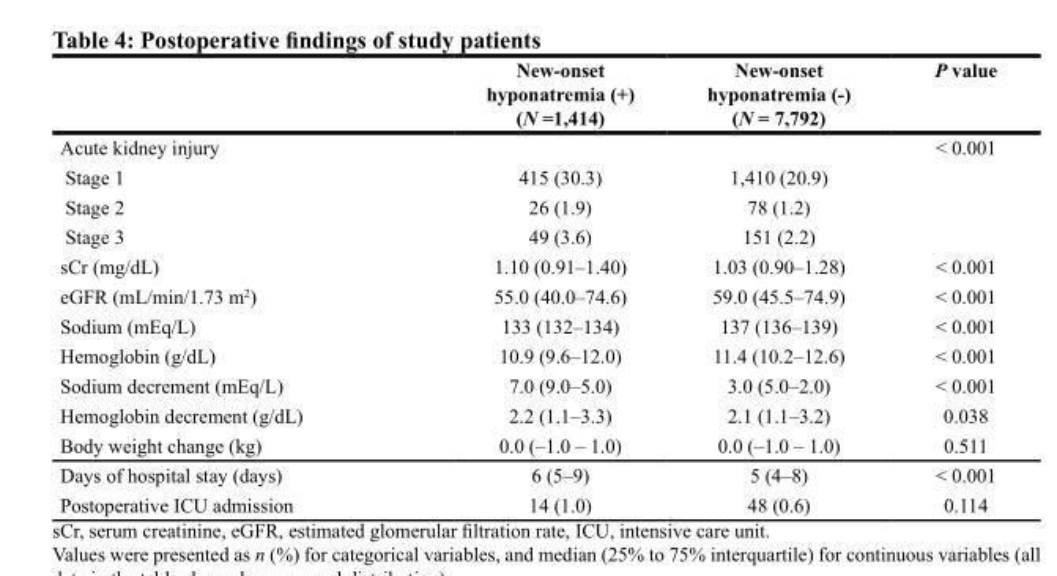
<table><thead><tr><td></td><td>New-onset hyponatremia (+) (N =1,414)</td><td>New-onset hyponatremia (-) (N = 7,792)</td><td>P value</td></tr></thead><tbody><tr><td>Acute kidney injury</td><td></td><td></td><td>&lt; 0.001</td></tr><tr><td>Stage 1</td><td>415 (30.3)</td><td>1,410 (20.9)</td><td></td></tr><tr><td>Stage 2</td><td>26 (1.9)</td><td>78 (1.2)</td><td></td></tr><tr><td>Stage 3</td><td>49 (3.6)</td><td>151 (2.2)</td><td></td></tr><tr><td>sCr (mg/dL)</td><td>1.10 (0.91–1.40)</td><td>1.03 (0.90–1.28)</td><td>&lt; 0.001</td></tr><tr><td>eGFR (mL/min/1.73 m<sup>2</sup>)</td><td>55.0 (40.0–74.6)</td><td>59.0 (45.5–74.9)</td><td>&lt; 0.001</td></tr><tr><td>Sodium (mEq/L)</td><td>133 (132–134)</td><td>137 (136–139)</td><td>&lt; 0.001</td></tr><tr><td>Hemoglobin (g/dL)</td><td>10.9 (9.6–12.0)</td><td>11.4 (10.2–12.6)</td><td>&lt; 0.001</td></tr><tr><td>Sodium decrement (mEq/L)</td><td>7.0 (9.0–5.0)</td><td>3.0 (5.0–2.0)</td><td>&lt; 0.001</td></tr><tr><td>Hemoglobin decrement (g/dL)</td><td>2.2 (1.1–3.3)</td><td>2.1 (1.1–3.2)</td><td>0.038</td></tr><tr><td>Body weight change (kg)</td><td>0.0 (–1.0 – 1.0)</td><td>0.0 (–1.0 – 1.0)</td><td>0.511</td></tr><tr><td>Days of hospital stay (days)</td><td>6 (5–9)</td><td>5 (4–8)</td><td>&lt; 0.001</td></tr><tr><td>Postoperative ICU admission</td><td>14 (1.0)</td><td>48 (0.6)</td><td>0.114</td></tr></tbody></table>